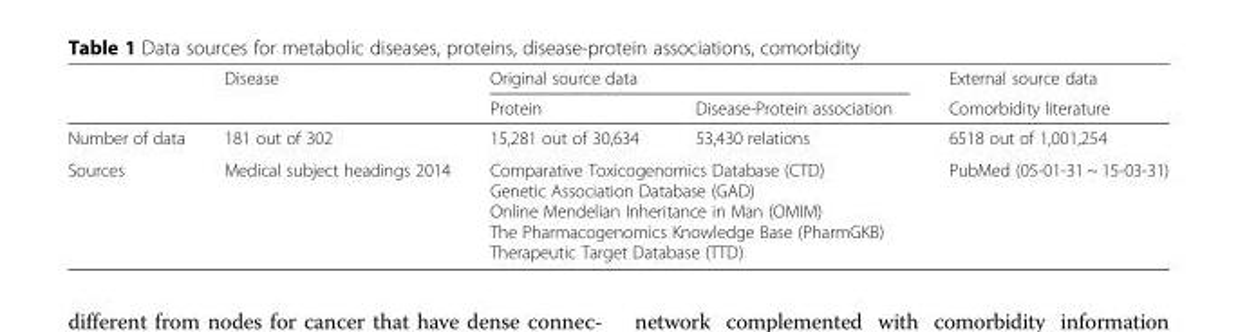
<table><thead><tr><td rowspan="2"></td><td rowspan="2">Disease</td><td colspan="2">Original source data</td><td rowspan="2">External source data Comorbidity literature</td></tr><tr><td>Protein</td><td>Disease-Protein association</td></tr></thead><tbody><tr><td>Number of data</td><td>181 out of 302</td><td>15,281 out of 30,634</td><td>53,430 relations</td><td>6518 out of 1,001,254</td></tr><tr><td>Sources</td><td>Medical subject headings 2014</td><td colspan="2">Comparative Toxicogenomics Database (CTD) Genetic Association Database (GAD) Online Mendelian Inheritance in Man (OMIM) The Pharmacogenomics Knowledge Base (PharmGKB) Therapeutic Target Database (TTD)</td><td>PubMed (05-01-31 ~ 15-03-31)</td></tr></tbody></table>